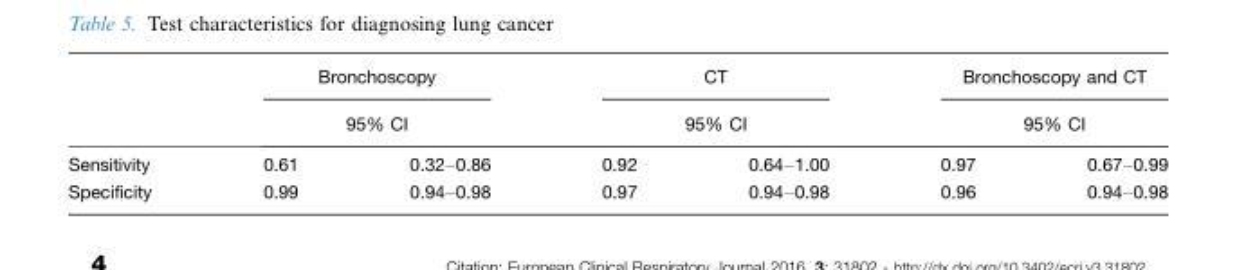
<table><thead><tr><td rowspan="3">Sensitivity</td><td rowspan="2" colspan="2">Bronchoscopy 95% CI</td><td rowspan="2" colspan="2">CT 95% CI</td><td rowspan="2" colspan="2">Bronchoscopy and CT 95% CI</td></tr><tr></tr><tr><td>0.61</td><td>0.32–0.86</td><td>0.92</td><td>0.64–1.00</td><td>0.97</td><td>0.67–0.99</td></tr></thead><tbody><tr><td>Specificity</td><td>0.99</td><td>0.94–0.98</td><td>0.97</td><td>0.94–0.98</td><td>0.96</td><td>0.94–0.98</td></tr></tbody></table>